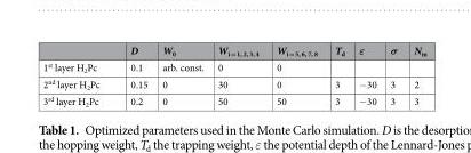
<table><thead><tr><td></td><td>D</td><td>W<sub>0</sub></td><td>W<sub>i = 1, 2, 3, 4</sub></td><td>W<sub>i = 5, 6, 7, 8</sub></td><td>T<sub>d</sub></td><td>ε</td><td>σ</td><td>N<sub>m</sub></td></tr></thead><tbody><tr><td>1<sup>st</sup> layer H<sub>2</sub>Pc</td><td>0.1</td><td>arb. const.</td><td>0</td><td>0</td><td></td><td></td><td></td><td></td></tr><tr><td>2<sup>nd</sup> layer H<sub>2</sub>Pc</td><td>0.15</td><td>0</td><td>30</td><td>0</td><td>3</td><td>−30</td><td>3</td><td>2</td></tr><tr><td>3<sup>rd</sup> layer H<sub>2</sub>Pc</td><td>0.2</td><td>0</td><td>50</td><td>50</td><td>3</td><td>−30</td><td>3</td><td>3</td></tr></tbody></table>